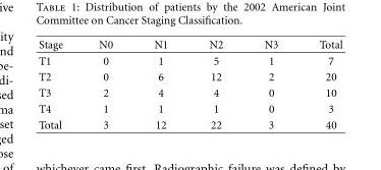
<table><thead><tr><td>Stage</td><td>N0</td><td>N1</td><td>N2</td><td>N3</td><td>Total</td></tr></thead><tbody><tr><td>T1</td><td>0</td><td>1</td><td>5</td><td>1</td><td>7</td></tr><tr><td>T2</td><td>0</td><td>6</td><td>12</td><td>2</td><td>20</td></tr><tr><td>T3</td><td>2</td><td>4</td><td>4</td><td>0</td><td>10</td></tr><tr><td>T4</td><td>1</td><td>1</td><td>1</td><td>0</td><td>3</td></tr><tr><td>Total</td><td>3</td><td>12</td><td>22</td><td>3</td><td>40</td></tr></tbody></table>